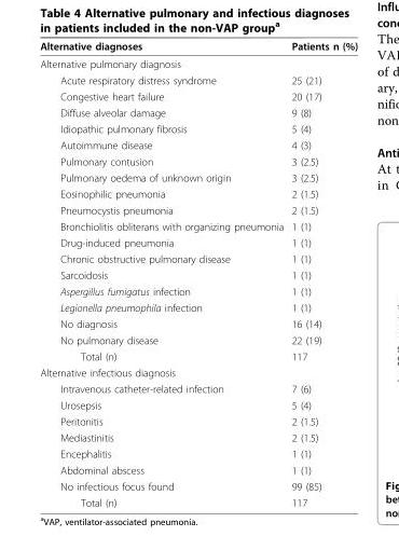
<table><thead><tr><td>Alternative diagnoses</td><td>Patients n (%)</td></tr></thead><tbody><tr><td colspan="2">Alternative pulmonary diagnosis</td></tr><tr><td>Acute respiratory distress syndrome</td><td>25 (21)</td></tr><tr><td>Congestive heart failure</td><td>20 (17)</td></tr><tr><td>Diffuse alveolar damage</td><td>9 (8)</td></tr><tr><td>Idiopathic pulmonary fibrosis</td><td>5 (4)</td></tr><tr><td>Autoimmune disease</td><td>4 (3)</td></tr><tr><td>Pulmonary contusion</td><td>3 (2.5)</td></tr><tr><td>Pulmonary oedema of unknown origin</td><td>3 (2.5)</td></tr><tr><td>Eosinophilic pneumonia</td><td>2 (1.5)</td></tr><tr><td>Pneumocystis pneumonia</td><td>2 (1.5)</td></tr><tr><td>Bronchiolitis obliterans with organizing pneumonia</td><td>1 (1)</td></tr><tr><td>Drug-induced pneumonia</td><td>1 (1)</td></tr><tr><td>Chronic obstructive pulmonary disease</td><td>1 (1)</td></tr><tr><td>Sarcoidosis</td><td>1 (1)</td></tr><tr><td>Aspergillus fumigatus infection</td><td>1 (1)</td></tr><tr><td>Legionella pneumophila infection</td><td>1 (1)</td></tr><tr><td>No diagnosis</td><td>16 (14)</td></tr><tr><td>No pulmonary disease</td><td>22 (19)</td></tr><tr><td>Total (n)</td><td>117</td></tr><tr><td colspan="2">Alternative infectious diagnosis</td></tr><tr><td>Intravenous catheter-related infection</td><td>7 (6)</td></tr><tr><td>Urosepsis</td><td>5 (4)</td></tr><tr><td>Peritonitis</td><td>2 (1.5)</td></tr><tr><td>Mediastinitis</td><td>2 (1.5)</td></tr><tr><td>Encephalitis</td><td>1 (1)</td></tr><tr><td>Abdominal abscess</td><td>1 (1)</td></tr><tr><td>No infectious focus found</td><td>99 (85)</td></tr><tr><td>Total (n)</td><td>117</td></tr></tbody></table>